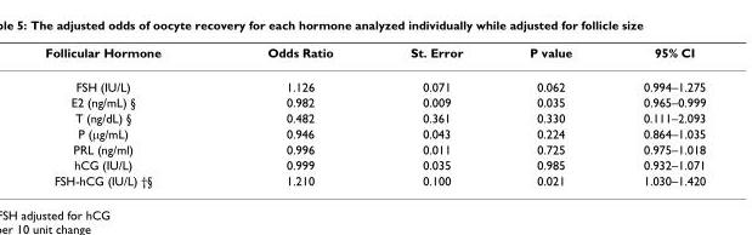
<table><thead><tr><td>Follicular Hormone</td><td>Odds Ratio</td><td>St. Error</td><td>P value</td><td>95% CI</td></tr></thead><tbody><tr><td>FSH (IU/L)</td><td>1.126</td><td>0.071</td><td>0.062</td><td>0.994–1.275</td></tr><tr><td>E2 (ng/mL) §</td><td>0.982</td><td>0.009</td><td>0.035</td><td>0.965–0.999</td></tr><tr><td>T (ng/dL) §</td><td>0.482</td><td>0.361</td><td>0.330</td><td>0.111–2.093</td></tr><tr><td>P (μg/mL)</td><td>0.946</td><td>0.043</td><td>0.224</td><td>0.864–1.035</td></tr><tr><td>PRL (ng/ml)</td><td>0.996</td><td>0.011</td><td>0.725</td><td>0.975–1.018</td></tr><tr><td>hCG (IU/L)</td><td>0.999</td><td>0.035</td><td>0.985</td><td>0.932–1.071</td></tr><tr><td>FSH-hCG (IU/L) †§</td><td>1.210</td><td>0.100</td><td>0.021</td><td>1.030–1.420</td></tr></tbody></table>